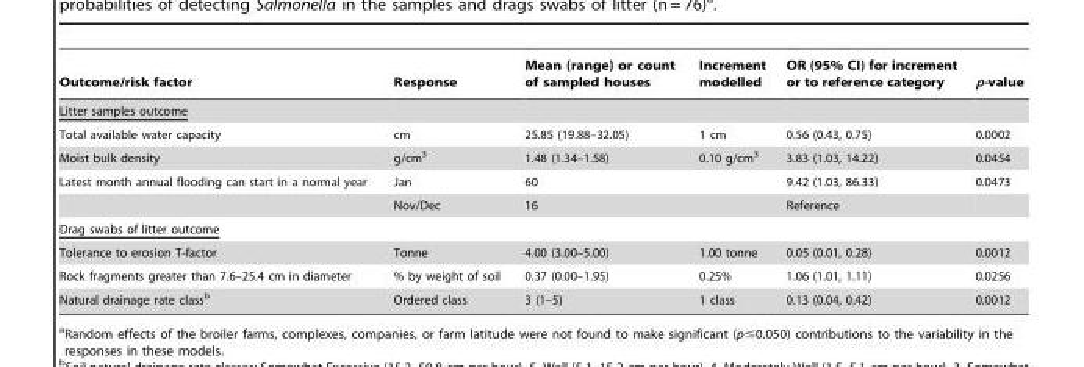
<table><thead><tr><td>Outcome/risk factor</td><td>Response</td><td>Mean (range) or count of sampled houses</td><td>Increment modelled</td><td>OR (95% CI) for increment or to reference category</td><td>p-value</td></tr></thead><tbody><tr><td colspan="6">Litter samples outcome</td></tr><tr><td>Total available water capacity</td><td>cm</td><td>25.85 (19.88–32.05)</td><td>1 cm</td><td>0.56 (0.43, 0.75)</td><td>0.0002</td></tr><tr><td>Moist bulk density</td><td>g/cm<sup>3</sup></td><td>1.48 (1.34–1.58)</td><td>0.10 g/cm<sup>3</sup></td><td>3.83 (1.03, 14.22)</td><td>0.0454</td></tr><tr><td rowspan="2">Latest month annual flooding can start in a normal year</td><td>Jan</td><td>60</td><td></td><td>9.42 (1.03, 86.33)</td><td>0.0473</td></tr><tr><td>Nov/Dec</td><td>16</td><td></td><td>Reference</td><td></td></tr><tr><td colspan="6">Drag swabs of litter outcome</td></tr><tr><td>Tolerance to erosion T-factor</td><td>Tonne</td><td>4.00 (3.00–5.00)</td><td>1.00 tonne</td><td>0.05 (0.01, 0.28)</td><td>0.0012</td></tr><tr><td>Rock fragments greater than 7.6–25.4 cm in diameter</td><td>% by weight of soil</td><td>0.37 (0.00–1.95)</td><td>0.25%</td><td>1.06 (1.01, 1.11)</td><td>0.0256</td></tr><tr><td>Natural drainage rate class<sup>b</sup></td><td>Ordered class</td><td>3 (1–5)</td><td>1 class</td><td>0.13 (0.04, 0.42)</td><td>0.0012</td></tr></tbody></table>